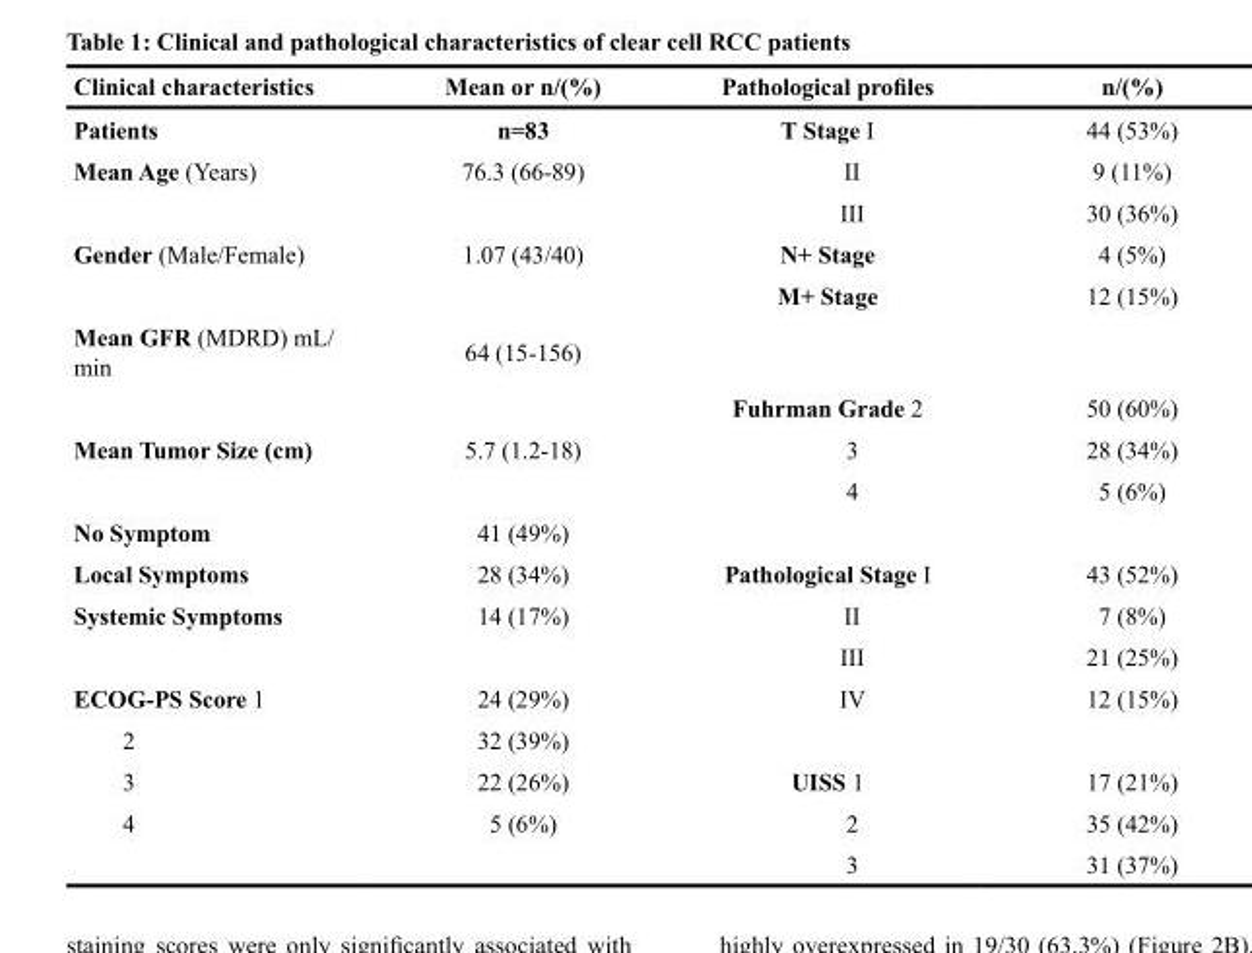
<table><thead><tr><td>Clinical characteristics</td><td>Mean or n/(%)</td><td>Pathological profiles</td><td>n/(%)</td></tr></thead><tbody><tr><td>Patients</td><td>n=83</td><td>T Stage I</td><td>44 (53%)</td></tr><tr><td rowspan="2">Mean Age (Years)</td><td>76.3 (66-89)</td><td>II</td><td>9 (11%)</td></tr><tr><td></td><td>III</td><td>30 (36%)</td></tr><tr><td rowspan="2">Gender (Male/Female)</td><td>1.07 (43/40)</td><td>N+ Stage</td><td>4 (5%)</td></tr><tr><td></td><td>M+ Stage</td><td>12 (15%)</td></tr><tr><td rowspan="2">Mean GFR (MDRD) mL/ min</td><td>64 (15-156)</td><td></td><td></td></tr><tr><td></td><td>Fuhrman Grade 2</td><td>50 (60%)</td></tr><tr><td rowspan="2">Mean Tumor Size (cm)</td><td>5.7 (1.2-18)</td><td>3</td><td>28 (34%)</td></tr><tr><td></td><td>4</td><td>5 (6%)</td></tr><tr><td>No Symptom</td><td>41 (49%)</td><td></td><td></td></tr><tr><td>Local Symptoms</td><td>28 (34%)</td><td>Pathological Stage I</td><td>43 (52%)</td></tr><tr><td rowspan="2">Systemic Symptoms</td><td>14 (17%)</td><td>II</td><td>7 (8%)</td></tr><tr><td></td><td>III</td><td>21 (25%)</td></tr><tr><td>ECOG-PS Score 1</td><td>24 (29%)</td><td>IV</td><td>12 (15%)</td></tr><tr><td>2</td><td>32 (39%)</td><td></td><td></td></tr><tr><td>3</td><td>22 (26%)</td><td>UISS 1</td><td>17 (21%)</td></tr><tr><td rowspan="2">4</td><td>5 (6%)</td><td>2</td><td>35 (42%)</td></tr><tr><td></td><td>3</td><td>31 (37%)</td></tr></tbody></table>